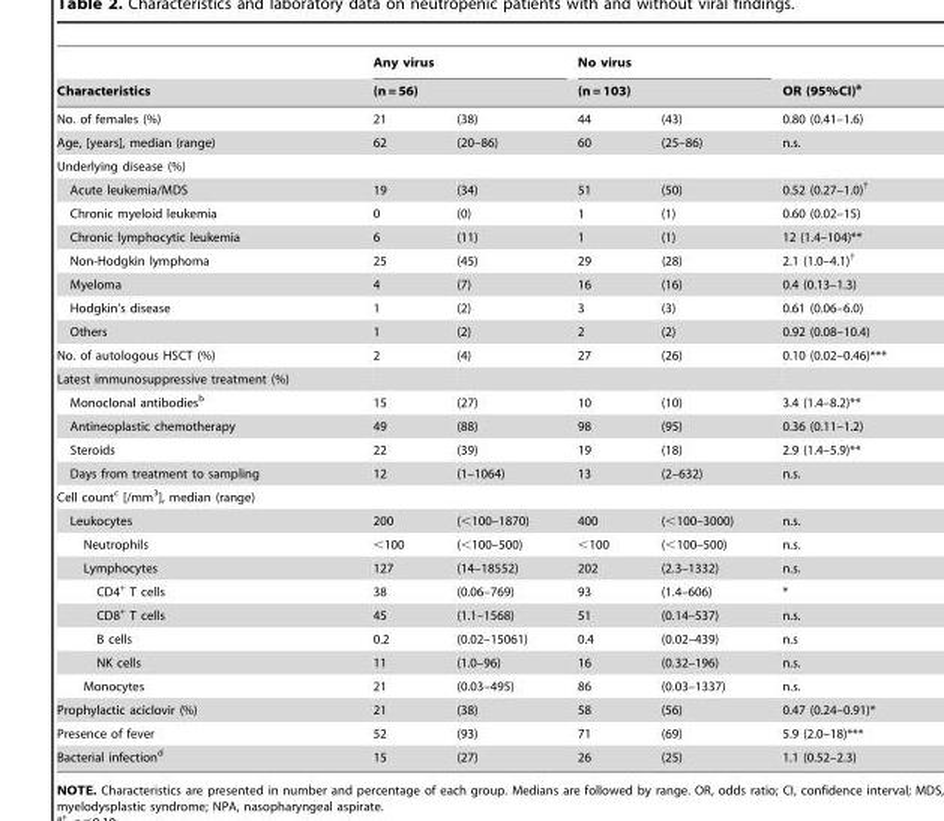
<table><thead><tr><td rowspan="3">Characteristics No. of females (%)</td><td rowspan="2" colspan="2">Any virus (n = 56)</td><td rowspan="2" colspan="2">No virus (n = 103)</td><td rowspan="3">OR (95%CI)<sup>a</sup> 0.80 (0.41–1.6)</td></tr><tr></tr><tr><td>21</td><td>(38)</td><td>44</td><td>(43)</td></tr></thead><tbody><tr><td>Age, [years], median (range)</td><td>62</td><td>(20–86)</td><td>60</td><td>(25–86)</td><td>n.s.</td></tr><tr><td colspan="6">Underlying disease (%)</td></tr><tr><td>Acute leukemia/MDS</td><td>19</td><td>(34)</td><td>51</td><td>(50)</td><td>0.52 (0.27–1.0)†</td></tr><tr><td>Chronic myeloid leukemia</td><td>0</td><td>(0)</td><td>1</td><td>(1)</td><td>0.60 (0.02–15)</td></tr><tr><td>Chronic lymphocytic leukemia</td><td>6</td><td>(11)</td><td>1</td><td>(1)</td><td>12 (1.4–104)**</td></tr><tr><td>Non-Hodgkin lymphoma</td><td>25</td><td>(45)</td><td>29</td><td>(28)</td><td>2.1 (1.0–4.1)†</td></tr><tr><td>Myeloma</td><td>4</td><td>(7)</td><td>16</td><td>(16)</td><td>0.4 (0.13–1.3)</td></tr><tr><td>Hodgkin’s disease</td><td>1</td><td>(2)</td><td>3</td><td>(3)</td><td>0.61 (0.06–6.0)</td></tr><tr><td>Others</td><td>1</td><td>(2)</td><td>2</td><td>(2)</td><td>0.92 (0.08–10.4)</td></tr><tr><td>No. of autologous HSCT (%)</td><td>2</td><td>(4)</td><td>27</td><td>(26)</td><td>0.10 (0.02–0.46)***</td></tr><tr><td colspan="6">Latest immunosuppressive treatment (%)</td></tr><tr><td>Monoclonal antibodies<sup>b</sup></td><td>15</td><td>(27)</td><td>10</td><td>(10)</td><td>3.4 (1.4–8.2)**</td></tr><tr><td>Antineoplastic chemotherapy</td><td>49</td><td>(88)</td><td>98</td><td>(95)</td><td>0.36 (0.11–1.2)</td></tr><tr><td>Steroids</td><td>22</td><td>(39)</td><td>19</td><td>(18)</td><td>2.9 (1.4–5.9)**</td></tr><tr><td>Days from treatment to sampling</td><td>12</td><td>(1–1064)</td><td>13</td><td>(2–632)</td><td>n.s.</td></tr><tr><td colspan="6">Cell count<sup>c</sup> [/mm<sup>3</sup>], median (range)</td></tr><tr><td>Leukocytes</td><td>200</td><td>(&lt;100–1870)</td><td>400</td><td>(&lt;100–3000)</td><td>n.s.</td></tr><tr><td>Neutrophils</td><td>&lt;100</td><td>(&lt;100–500)</td><td>&lt;100</td><td>(&lt;100–500)</td><td>n.s.</td></tr><tr><td>Lymphocytes</td><td>127</td><td>(14–18552)</td><td>202</td><td>(2.3–1332)</td><td>n.s.</td></tr><tr><td>CD4<sup>+</sup> T cells</td><td>38</td><td>(0.06–769)</td><td>93</td><td>(1.4–606)</td><td>*</td></tr><tr><td>CD8<sup>+</sup> T cells</td><td>45</td><td>(1.1–1568)</td><td>51</td><td>(0.14–537)</td><td>n.s.</td></tr><tr><td>B cells</td><td>0.2</td><td>(0.02–15061)</td><td>0.4</td><td>(0.02–439)</td><td>n.s</td></tr><tr><td>NK cells</td><td>11</td><td>(1.0–96)</td><td>16</td><td>(0.32–196)</td><td>n.s.</td></tr><tr><td>Monocytes</td><td>21</td><td>(0.03–495)</td><td>86</td><td>(0.03–1337)</td><td>n.s.</td></tr><tr><td>Prophylactic aciclovir (%)</td><td>21</td><td>(38)</td><td>58</td><td>(56)</td><td>0.47 (0.24–0.91)*</td></tr><tr><td>Presence of fever</td><td>52</td><td>(93)</td><td>71</td><td>(69)</td><td>5.9 (2.0–18)***</td></tr><tr><td>Bacterial infection<sup>d</sup></td><td>15</td><td>(27)</td><td>26</td><td>(25)</td><td>1.1 (0.52–2.3)</td></tr></tbody></table>